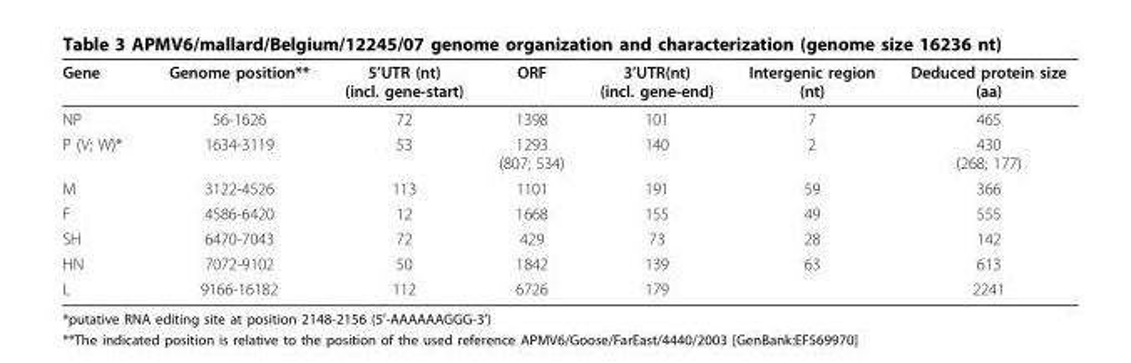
<table><thead><tr><td>Gene</td><td>Genome position**</td><td>5’UTR (nt) (incl. gene-start)</td><td>ORF</td><td>3’UTR(nt) (incl. gene-end)</td><td>Intergenic region (nt)</td><td>Deduced protein size (aa)</td></tr></thead><tbody><tr><td>NP</td><td>56-1626</td><td>72</td><td>1398</td><td>101</td><td>7</td><td>465</td></tr><tr><td>P (V; W)*</td><td>1634-3119</td><td>53</td><td>1293 (807; 534)</td><td>140</td><td>2</td><td>430 (268; 177)</td></tr><tr><td>M</td><td>3122-4526</td><td>113</td><td>1101</td><td>191</td><td>59</td><td>366</td></tr><tr><td>F</td><td>4586-6420</td><td>12</td><td>1668</td><td>155</td><td>49</td><td>555</td></tr><tr><td>SH</td><td>6470-7043</td><td>72</td><td>429</td><td>73</td><td>28</td><td>142</td></tr><tr><td>HN</td><td>7072-9102</td><td>50</td><td>1842</td><td>139</td><td>63</td><td>613</td></tr><tr><td>L</td><td>9166-16182</td><td>112</td><td>6726</td><td>179</td><td></td><td>2241</td></tr></tbody></table>